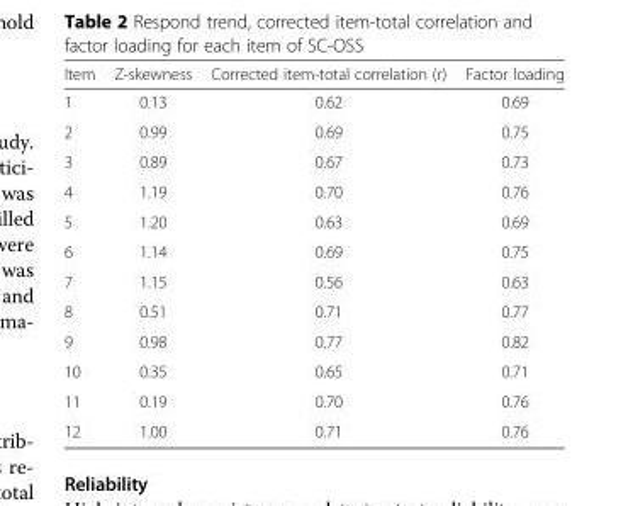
<table><thead><tr><td>Item</td><td>Z-skewness</td><td>Corrected item-total correlation (r)</td><td>Factor loading</td></tr></thead><tbody><tr><td>1</td><td>0.13</td><td>0.62</td><td>0.69</td></tr><tr><td>2</td><td>0.99</td><td>0.69</td><td>0.75</td></tr><tr><td>3</td><td>0.89</td><td>0.67</td><td>0.73</td></tr><tr><td>4</td><td>1.19</td><td>0.70</td><td>0.76</td></tr><tr><td>5</td><td>1.20</td><td>0.63</td><td>0.69</td></tr><tr><td>6</td><td>1.14</td><td>0.69</td><td>0.75</td></tr><tr><td>7</td><td>1.15</td><td>0.56</td><td>0.63</td></tr><tr><td>8</td><td>0.51</td><td>0.71</td><td>0.77</td></tr><tr><td>9</td><td>0.98</td><td>0.77</td><td>0.82</td></tr><tr><td>10</td><td>0.35</td><td>0.65</td><td>0.71</td></tr><tr><td>11</td><td>0.19</td><td>0.70</td><td>0.76</td></tr><tr><td>12</td><td>1.00</td><td>0.71</td><td>0.76</td></tr></tbody></table>